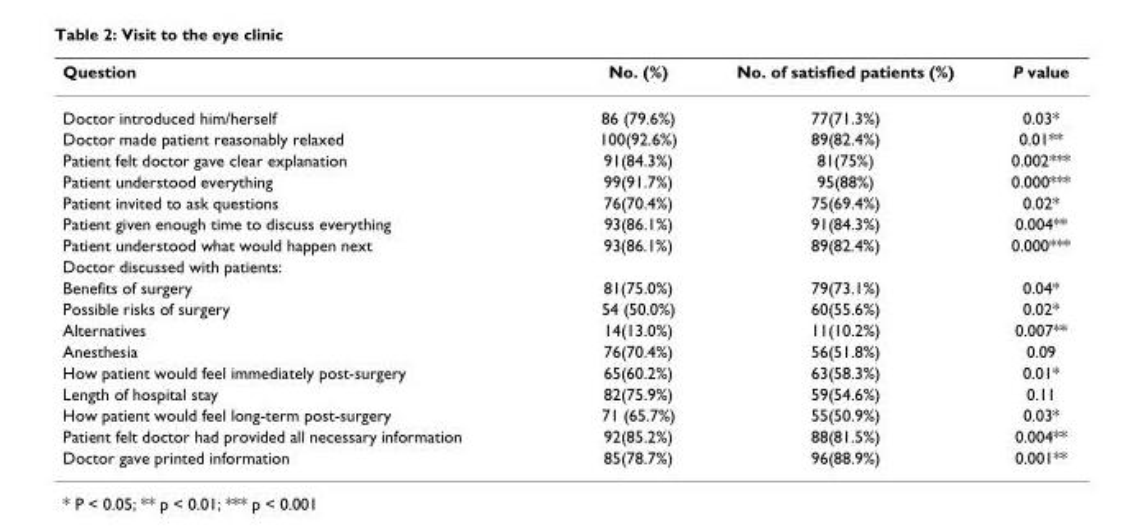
<table><thead><tr><td>Question</td><td>No. (%)</td><td>No. of satisfied patients (%)</td><td>P value</td></tr></thead><tbody><tr><td>Doctor introduced him/herself</td><td>86 (79.6%)</td><td>77(71.3%)</td><td>0.03*</td></tr><tr><td>Doctor made patient reasonably relaxed</td><td>100(92.6%)</td><td>89(82.4%)</td><td>0.01**</td></tr><tr><td>Patient felt doctor gave clear explanation</td><td>91(84.3%)</td><td>81(75%)</td><td>0.002***</td></tr><tr><td>Patient understood everything</td><td>99(91.7%)</td><td>95(88%)</td><td>0.000***</td></tr><tr><td>Patient invited to ask questions</td><td>76(70.4%)</td><td>75(69.4%)</td><td>0.02*</td></tr><tr><td>Patient given enough time to discuss everything</td><td>93(86.1%)</td><td>91(84.3%)</td><td>0.004**</td></tr><tr><td>Patient understood what would happen next</td><td>93(86.1%)</td><td>89(82.4%)</td><td>0.000***</td></tr><tr><td colspan="4">Doctor discussed with patients:</td></tr><tr><td>Benefits of surgery</td><td>81(75.0%)</td><td>79(73.1%)</td><td>0.04*</td></tr><tr><td>Possible risks of surgery</td><td>54 (50.0%)</td><td>60(55.6%)</td><td>0.02*</td></tr><tr><td>Alternatives</td><td>14(13.0%)</td><td>11(10.2%)</td><td>0.007**</td></tr><tr><td>Anesthesia</td><td>76(70.4%)</td><td>56(51.8%)</td><td>0.09</td></tr><tr><td>How patient would feel immediately post-surgery</td><td>65(60.2%)</td><td>63(58.3%)</td><td>0.01*</td></tr><tr><td>Length of hospital stay</td><td>82(75.9%)</td><td>59(54.6%)</td><td>0.11</td></tr><tr><td>How patient would feel long-term post-surgery</td><td>71 (65.7%)</td><td>55(50.9%)</td><td>0.03*</td></tr><tr><td>Patient felt doctor had provided all necessary information</td><td>92(85.2%)</td><td>88(81.5%)</td><td>0.004**</td></tr><tr><td>Doctor gave printed information</td><td>85(78.7%)</td><td>96(88.9%)</td><td>0.001**</td></tr></tbody></table>